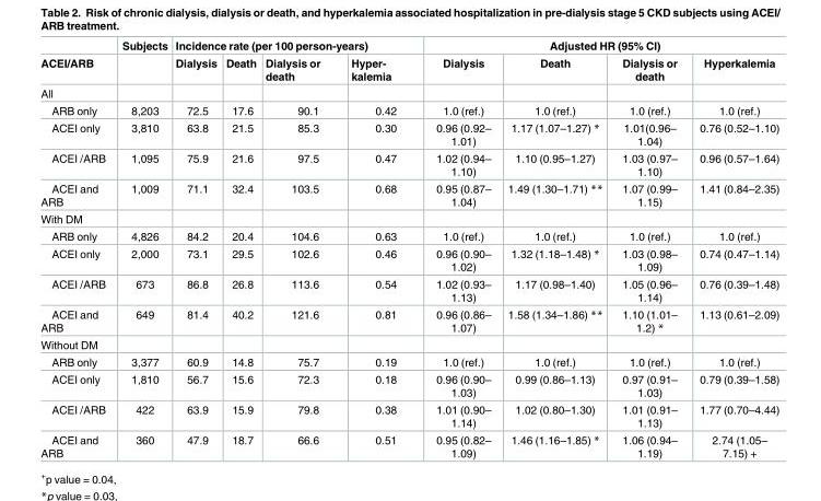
<table><thead><tr><td rowspan="2">ACEI/ARB</td><td rowspan="2">Subjects</td><td colspan="4">Incidence rate (per 100 person-years)</td><td colspan="4">Adjusted HR (95% CI)</td></tr><tr><td>Dialysis</td><td>Death</td><td>Dialysis or death</td><td>Hyper- kalemia</td><td>Dialysis</td><td>Death</td><td>Dialysis or death</td><td>Hyperkalemia</td></tr></thead><tbody><tr><td colspan="10">All</td></tr><tr><td>ARB only</td><td>8,203</td><td>72.5</td><td>17.6</td><td>90.1</td><td>0.42</td><td>1.0 (ref.)</td><td>1.0 (ref.)</td><td>1.0 (ref.)</td><td>1.0 (ref.)</td></tr><tr><td>ACEI only</td><td>3,810</td><td>63.8</td><td>21.5</td><td>85.3</td><td>0.30</td><td>0.96 (0.92– 1.01)</td><td>1.17 (1.07–1.27) *</td><td>1.01(0.96– 1.04)</td><td>0.76 (0.52–1.10)</td></tr><tr><td>ACEI /ARB</td><td>1,095</td><td>75.9</td><td>21.6</td><td>97.5</td><td>0.47</td><td>1.02 (0.94– 1.10)</td><td>1.10 (0.95–1.27)</td><td>1.03 (0.97– 1.10)</td><td>0.96 (0.57–1.64)</td></tr><tr><td>ACEI and ARB</td><td>1,009</td><td>71.1</td><td>32.4</td><td>103.5</td><td>0.68</td><td>0.95 (0.87– 1.04)</td><td>1.49 (1.30–1.71) **</td><td>1.07 (0.99– 1.15)</td><td>1.41 (0.84–2.35)</td></tr><tr><td colspan="10">With DM</td></tr><tr><td>ARB only</td><td>4,826</td><td>84.2</td><td>20.4</td><td>104.6</td><td>0.63</td><td>1.0 (ref.)</td><td>1.0 (ref.)</td><td>1.0 (ref.)</td><td>1.0 (ref.)</td></tr><tr><td>ACEI only</td><td>2,000</td><td>73.1</td><td>29.5</td><td>102.6</td><td>0.46</td><td>0.96 (0.90– 1.02)</td><td>1.32 (1.18–1.48) *</td><td>1.03 (0.98– 1.09)</td><td>0.74 (0.47–1.14)</td></tr><tr><td>ACEI /ARB</td><td>673</td><td>86.8</td><td>26.8</td><td>113.6</td><td>0.54</td><td>1.02 (0.93– 1.13)</td><td>1.17 (0.98–1.40)</td><td>1.05 (0.96– 1.14)</td><td>0.76 (0.39–1.48)</td></tr><tr><td>ACEI and ARB</td><td>649</td><td>81.4</td><td>40.2</td><td>121.6</td><td>0.81</td><td>0.96 (0.86– 1.07)</td><td>1.58 (1.34–1.86) **</td><td>1.10 (1.01– 1.2) *</td><td>1.13 (0.61–2.09)</td></tr><tr><td colspan="10">Without DM</td></tr><tr><td>ARB only</td><td>3,377</td><td>60.9</td><td>14.8</td><td>75.7</td><td>0.19</td><td>1.0 (ref.)</td><td>1.0 (ref.)</td><td>1.0 (ref.)</td><td>1.0 (ref.)</td></tr><tr><td>ACEI only</td><td>1,810</td><td>56.7</td><td>15.6</td><td>72.3</td><td>0.18</td><td>0.96 (0.90– 1.03)</td><td>0.99 (0.86–1.13)</td><td>0.97 (0.91– 1.03)</td><td>0.79 (0.39–1.58)</td></tr><tr><td>ACEI /ARB</td><td>422</td><td>63.9</td><td>15.9</td><td>79.8</td><td>0.38</td><td>1.01 (0.90– 1.14)</td><td>1.02 (0.80–1.30)</td><td>1.01 (0.91– 1.13)</td><td>1.77 (0.70–4.44)</td></tr><tr><td>ACEI and ARB</td><td>360</td><td>47.9</td><td>18.7</td><td>66.6</td><td>0.51</td><td>0.95 (0.82– 1.09)</td><td>1.46 (1.16–1.85) *</td><td>1.06 (0.94– 1.19)</td><td>2.74 (1.05– 7.15) +</td></tr></tbody></table>